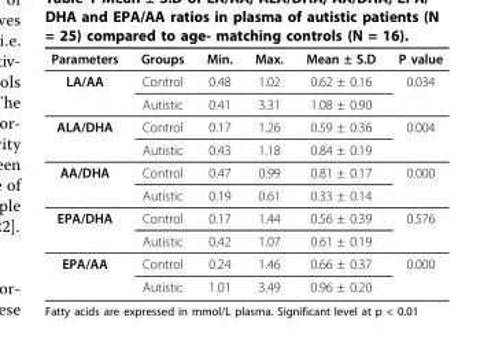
<table><thead><tr><td>Parameters</td><td>Groups</td><td>Min.</td><td>Max.</td><td>Mean ± S.D</td><td>P value</td></tr></thead><tbody><tr><td rowspan="2">LA/AA</td><td>Control</td><td>0.48</td><td>1.02</td><td>0.62 ± 0.16</td><td>0.034</td></tr><tr><td>Autistic</td><td>0.41</td><td>3.31</td><td>1.08 ± 0.90</td><td></td></tr><tr><td rowspan="2">ALA/DHA</td><td>Control</td><td>0.17</td><td>1.26</td><td>0.59 ± 0.36</td><td>0.004</td></tr><tr><td>Autistic</td><td>0.43</td><td>1.18</td><td>0.84 ± 0.19</td><td></td></tr><tr><td rowspan="2">AA/DHA</td><td>Control</td><td>0.47</td><td>0.99</td><td>0.81 ± 0.17</td><td>0.000</td></tr><tr><td>Autistic</td><td>0.19</td><td>0.61</td><td>0.33 ± 0.14</td><td></td></tr><tr><td rowspan="2">EPA/DHA</td><td>Control</td><td>0.17</td><td>1.44</td><td>0.56 ± 0.39</td><td>0.576</td></tr><tr><td>Autistic</td><td>0.42</td><td>1.07</td><td>0.61 ± 0.19</td><td></td></tr><tr><td rowspan="2">EPA/AA</td><td>Control</td><td>0.24</td><td>1.46</td><td>0.66 ± 0.37</td><td>0.000</td></tr><tr><td>Autistic</td><td>1.01</td><td>3.49</td><td>0.96 ± 0.20</td><td></td></tr></tbody></table>